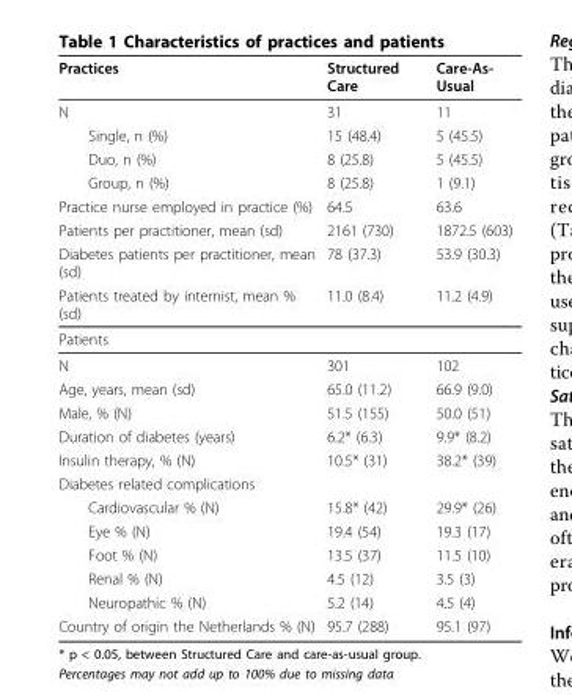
<table><thead><tr><td>Practices</td><td>Structured Care</td><td>Care-As- Usual</td></tr></thead><tbody><tr><td>N</td><td>31</td><td>11</td></tr><tr><td>Single, n (%)</td><td>15 (48.4)</td><td>5 (45.5)</td></tr><tr><td>Duo, n (%)</td><td>8 (25.8)</td><td>5 (45.5)</td></tr><tr><td>Group, n (%)</td><td>8 (25.8)</td><td>1 (9.1)</td></tr><tr><td>Practice nurse employed in practice (%)</td><td>64.5</td><td>63.6</td></tr><tr><td>Patients per practitioner, mean (sd)</td><td>2161 (730)</td><td>1872.5 (603)</td></tr><tr><td>Diabetes patients per practitioner, mean (sd)</td><td>78 (37.3)</td><td>53.9 (30.3)</td></tr><tr><td>Patients treated by internist, mean % (sd)</td><td>11.0 (8.4)</td><td>11.2 (4.9)</td></tr><tr><td colspan="3">Patients</td></tr><tr><td>N</td><td>301</td><td>102</td></tr><tr><td>Age, years, mean (sd)</td><td>65.0 (11.2)</td><td>66.9 (9.0)</td></tr><tr><td>Male, % (N)</td><td>51.5 (155)</td><td>50.0 (51)</td></tr><tr><td>Duration of diabetes (years)</td><td>6.2* (6.3)</td><td>9.9* (8.2)</td></tr><tr><td>Insulin therapy, % (N)</td><td>10.5* (31)</td><td>38.2* (39)</td></tr><tr><td colspan="3">Diabetes related complications</td></tr><tr><td>Cardiovascular % (N)</td><td>15.8* (42)</td><td>29.9* (26)</td></tr><tr><td>Eye % (N)</td><td>19.4 (54)</td><td>19.3 (17)</td></tr><tr><td>Foot % (N)</td><td>13.5 (37)</td><td>11.5 (10)</td></tr><tr><td>Renal % (N)</td><td>4.5 (12)</td><td>3.5 (3)</td></tr><tr><td>Neuropathic % (N)</td><td>5.2 (14)</td><td>4.5 (4)</td></tr><tr><td>Country of origin the Netherlands % (N)</td><td>95.7 (288)</td><td>95.1 (97)</td></tr></tbody></table>